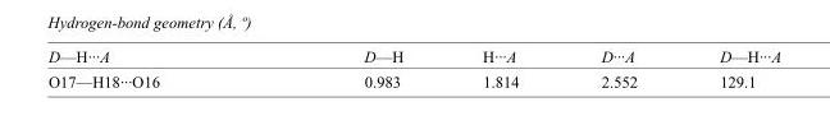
<table><tbody><tr><td>D—H···A</td><td>D—H</td><td>H···A</td><td>D···A</td><td>D—H···A</td></tr><tr><td>O17—H18···O16</td><td>0.983</td><td>1.814</td><td>2.552</td><td>129.1</td></tr></tbody></table>